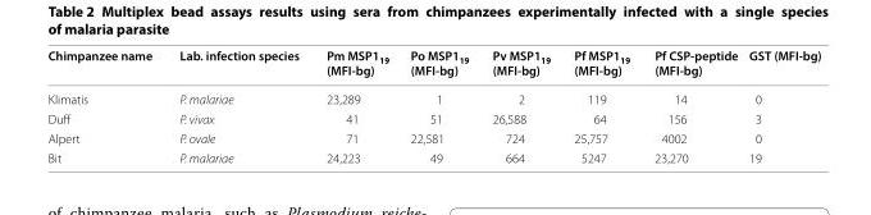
<table><thead><tr><td>Chimpanzee name</td><td>Lab. infection species</td><td>Pm MSP1<sub>19</sub> (MFI‑bg)</td><td>Po MSP1<sub>19</sub> (MFI‑bg)</td><td>Pv MSP1<sub>19</sub> (MFI‑bg)</td><td>Pf MSP1<sub>19</sub> (MFI‑bg)</td><td>Pf CSP‑peptide (MFI‑bg)</td><td>GST (MFI‑bg)</td></tr></thead><tbody><tr><td>Klimatis</td><td>P. malariae</td><td>23,289</td><td>1</td><td>2</td><td>119</td><td>14</td><td>0</td></tr><tr><td>Duff</td><td>P. vivax</td><td>41</td><td>51</td><td>26,588</td><td>64</td><td>156</td><td>3</td></tr><tr><td>Alpert</td><td>P. ovale</td><td>71</td><td>22,581</td><td>724</td><td>25,757</td><td>4002</td><td>0</td></tr><tr><td>Bit</td><td>P. malariae</td><td>24,223</td><td>49</td><td>664</td><td>5247</td><td>23,270</td><td>19</td></tr></tbody></table>